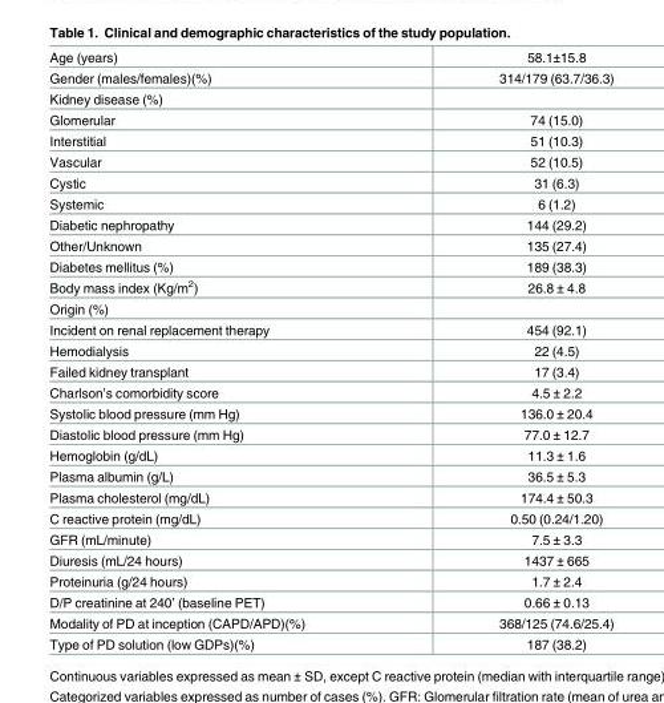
<table><tbody><tr><td>Age (years)</td><td>58.1±15.8</td></tr><tr><td>Gender (males/females)(%)</td><td>314/179 (63.7/36.3)</td></tr><tr><td colspan="2">Kidney disease (%)</td></tr><tr><td>Glomerular</td><td>74 (15.0)</td></tr><tr><td>Interstitial</td><td>51 (10.3)</td></tr><tr><td>Vascular</td><td>52 (10.5)</td></tr><tr><td>Cystic</td><td>31 (6.3)</td></tr><tr><td>Systemic</td><td>6 (1.2)</td></tr><tr><td>Diabetic nephropathy</td><td>144 (29.2)</td></tr><tr><td>Other/Unknown</td><td>135 (27.4)</td></tr><tr><td>Diabetes mellitus (%)</td><td>189 (38.3)</td></tr><tr><td>Body mass index (Kg/m<sup>2</sup>)</td><td>26.8 ± 4.8</td></tr><tr><td colspan="2">Origin (%)</td></tr><tr><td>Incident on renal replacement therapy</td><td>454 (92.1)</td></tr><tr><td>Hemodialysis</td><td>22 (4.5)</td></tr><tr><td>Failed kidney transplant</td><td>17 (3.4)</td></tr><tr><td>Charlson’s comorbidity score</td><td>4.5 ± 2.2</td></tr><tr><td>Systolic blood pressure (mm Hg)</td><td>136.0 ± 20.4</td></tr><tr><td>Diastolic blood pressure (mm Hg)</td><td>77.0 ± 12.7</td></tr><tr><td>Hemoglobin (g/dL)</td><td>11.3 ± 1.6</td></tr><tr><td>Plasma albumin (g/L)</td><td>36.5 ± 5.3</td></tr><tr><td>Plasma cholesterol (mg/dL)</td><td>174.4 ± 50.3</td></tr><tr><td>C reactive protein (mg/dL)</td><td>0.50 (0.24/1.20)</td></tr><tr><td>GFR (mL/minute)</td><td>7.5 ± 3.3</td></tr><tr><td>Diuresis (mL/24 hours)</td><td>1437 ± 665</td></tr><tr><td>Proteinuria (g/24 hours)</td><td>1.7 ± 2.4</td></tr><tr><td>D/P creatinine at 240’ (baseline PET)</td><td>0.66 ± 0.13</td></tr><tr><td>Modality of PD at inception (CAPD/APD)(%)</td><td>368/125 (74.6/25.4)</td></tr><tr><td>Type of PD solution (low GDPs)(%)</td><td>187 (38.2)</td></tr></tbody></table>